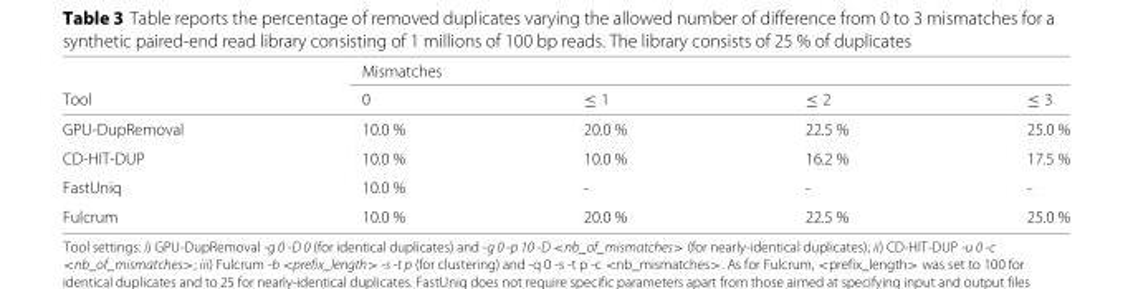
<table><thead><tr><td rowspan="2">Tool</td><td colspan="4">Mismatches</td></tr><tr><td>0</td><td>≤ 1</td><td>≤ 2</td><td>≤ 3</td></tr></thead><tbody><tr><td>GPU-DupRemoval</td><td>10.0 %</td><td>20.0 %</td><td>22.5 %</td><td>25.0 %</td></tr><tr><td>CD-HIT-DUP</td><td>10.0 %</td><td>10.0 %</td><td>16.2 %</td><td>17.5 %</td></tr><tr><td>FastUniq</td><td>10.0 %</td><td>-</td><td>-</td><td>-</td></tr><tr><td>Fulcrum</td><td>10.0 %</td><td>20.0 %</td><td>22.5 %</td><td>25.0 %</td></tr></tbody></table>